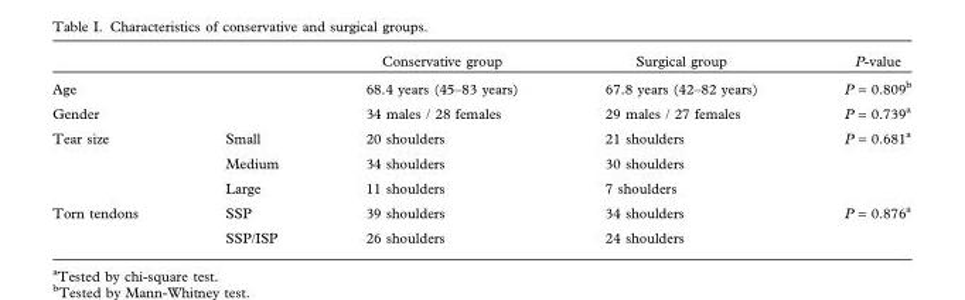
<table><thead><tr><td></td><td></td><td>Conservative group</td><td>Surgical group</td><td>P-value</td></tr></thead><tbody><tr><td>Age</td><td></td><td>68.4 years (45–83 years)</td><td>67.8 years (42–82 years)</td><td>P = 0.809<sup>b</sup></td></tr><tr><td>Gender</td><td></td><td>34 males / 28 females</td><td>29 males / 27 females</td><td>P = 0.739<sup>a</sup></td></tr><tr><td rowspan="3">Tear size</td><td>Small</td><td>20 shoulders</td><td>21 shoulders</td><td>P = 0.681<sup>a</sup></td></tr><tr><td>Medium</td><td>34 shoulders</td><td>30 shoulders</td><td></td></tr><tr><td>Large</td><td>11 shoulders</td><td>7 shoulders</td><td></td></tr><tr><td rowspan="2">Torn tendons</td><td>SSP</td><td>39 shoulders</td><td>34 shoulders</td><td>P = 0.876<sup>a</sup></td></tr><tr><td>SSP/ISP</td><td>26 shoulders</td><td>24 shoulders</td><td></td></tr></tbody></table>